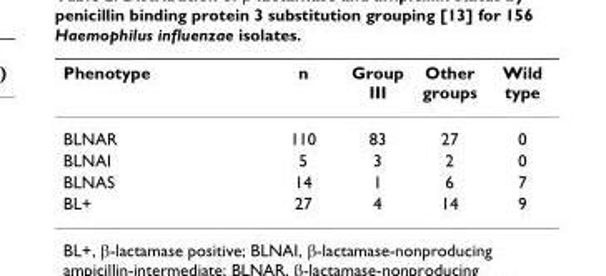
<table><thead><tr><td>Phenotype</td><td>n</td><td>Group III</td><td>Other groups</td><td>Wild type</td></tr></thead><tbody><tr><td>BLNAR</td><td>110</td><td>83</td><td>27</td><td>0</td></tr><tr><td>BLNAI</td><td>5</td><td>3</td><td>2</td><td>0</td></tr><tr><td>BLNAS</td><td>14</td><td>1</td><td>6</td><td>7</td></tr><tr><td>BL+</td><td>27</td><td>4</td><td>14</td><td>9</td></tr></tbody></table>